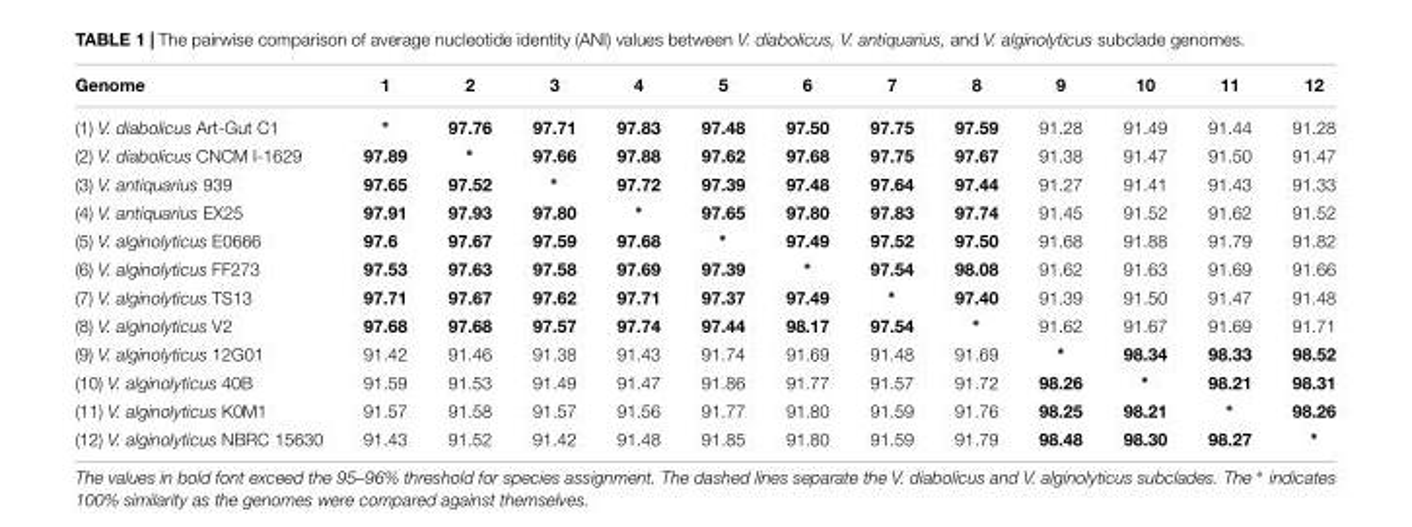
<table><thead><tr><td>Genome</td><td>1</td><td>2</td><td>3</td><td>4</td><td>5</td><td>6</td><td>7</td><td>8</td><td>9</td><td>10</td><td>11</td><td>12</td></tr></thead><tbody><tr><td>(1) V. diabolicus Art-Gut C1</td><td>∗</td><td>97.76</td><td>97.71</td><td>97.83</td><td>97.48</td><td>97.50</td><td>97.75</td><td>97.59</td><td>91.28</td><td>91.49</td><td>91.44</td><td>91.28</td></tr><tr><td>(2) V. diabolicus CNCM I-1629</td><td>97.89</td><td>∗</td><td>97.66</td><td>97.88</td><td>97.62</td><td>97.68</td><td>97.75</td><td>97.67</td><td>91.38</td><td>91.47</td><td>91.50</td><td>91.47</td></tr><tr><td>(3) V. antiquarius 939</td><td>97.65</td><td>97.52</td><td>∗</td><td>97.72</td><td>97.39</td><td>97.48</td><td>97.64</td><td>97.44</td><td>91.27</td><td>91.41</td><td>91.43</td><td>91.33</td></tr><tr><td>(4) V. antiquarius EX25</td><td>97.91</td><td>97.93</td><td>97.80</td><td>∗</td><td>97.65</td><td>97.80</td><td>97.83</td><td>97.74</td><td>91.45</td><td>91.52</td><td>91.62</td><td>91.52</td></tr><tr><td>(5) V. alginolyticus E0666</td><td>97.6</td><td>97.67</td><td>97.59</td><td>97.68</td><td>∗</td><td>97.49</td><td>97.52</td><td>97.50</td><td>91.68</td><td>91.88</td><td>91.79</td><td>91.82</td></tr><tr><td>(6) V. alginolyticus FF273</td><td>97.53</td><td>97.63</td><td>97.58</td><td>97.69</td><td>97.39</td><td>∗</td><td>97.54</td><td>98.08</td><td>91.62</td><td>91.63</td><td>91.69</td><td>91.66</td></tr><tr><td>(7) V. alginolyticus TS13</td><td>97.71</td><td>97.67</td><td>97.62</td><td>97.71</td><td>97.37</td><td>97.49</td><td>∗</td><td>97.40</td><td>91.39</td><td>91.50</td><td>91.47</td><td>91.48</td></tr><tr><td>(8) V. alginolyticus V2</td><td>97.68</td><td>97.68</td><td>97.57</td><td>97.74</td><td>97.44</td><td>98.17</td><td>97.54</td><td>∗</td><td>91.62</td><td>91.67</td><td>91.69</td><td>91.71</td></tr><tr><td>(9) V. alginolyticus 12G01</td><td>91.42</td><td>91.46</td><td>91.38</td><td>91.43</td><td>91.74</td><td>91.69</td><td>91.48</td><td>91.69</td><td>∗</td><td>98.34</td><td>98.33</td><td>98.52</td></tr><tr><td>(10) V. alginolyticus 40B</td><td>91.59</td><td>91.53</td><td>91.49</td><td>91.47</td><td>91.86</td><td>91.77</td><td>91.57</td><td>91.72</td><td>98.26</td><td>∗</td><td>98.21</td><td>98.31</td></tr><tr><td>(11) V. alginolyticus K0M1</td><td>91.57</td><td>91.58</td><td>91.57</td><td>91.56</td><td>91.77</td><td>91.80</td><td>91.59</td><td>91.76</td><td>98.25</td><td>98.21</td><td>∗</td><td>98.26</td></tr><tr><td>(12) V. alginolyticus NBRC 15630</td><td>91.43</td><td>91.52</td><td>91.42</td><td>91.48</td><td>91.85</td><td>91.80</td><td>91.59</td><td>91.79</td><td>98.48</td><td>98.30</td><td>98.27</td><td>∗</td></tr></tbody></table>